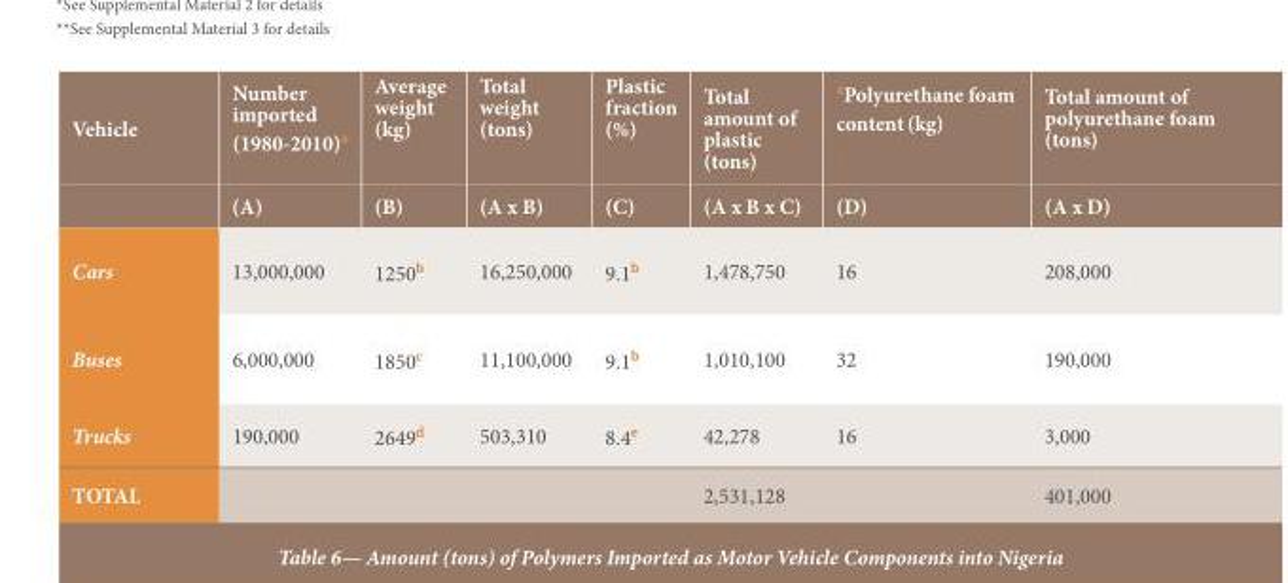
<table><thead><tr><td rowspan="2">Vehicle</td><td rowspan="2">Number imported (1980-2010)<sup>a</sup> (A)</td><td rowspan="2">Average weight (kg) (B)</td><td rowspan="2">Total weight (tons) (A x B)</td><td rowspan="2">Plastic fraction (%) (C)</td><td rowspan="2">Total amount of plastic (tons) (A x B x C)</td><td rowspan="2"><sup>a</sup>Polyurethane foam content (kg) (D)</td><td rowspan="2">Total amount of polyurethane foam (tons) (A x D)</td></tr><tr></tr></thead><tbody><tr><td>Cars</td><td>13,000,000</td><td>1250<sup>b</sup></td><td>16,250,000</td><td>9.1<sup>b</sup></td><td>1,478,750</td><td>16</td><td>208,000</td></tr><tr><td>Buses</td><td>6,000,000</td><td>1850<sup>c</sup></td><td>11,100,000</td><td>9.1<sup>b</sup></td><td>1,010,100</td><td>32</td><td>190,000</td></tr><tr><td>Trucks</td><td>190,000</td><td>2649<sup>d</sup></td><td>503,310</td><td>8.4<sup>e</sup></td><td>42,278</td><td>16</td><td>3,000</td></tr><tr><td>TOTAL</td><td></td><td></td><td></td><td></td><td>2,531,128</td><td></td><td>401,000</td></tr></tbody></table>